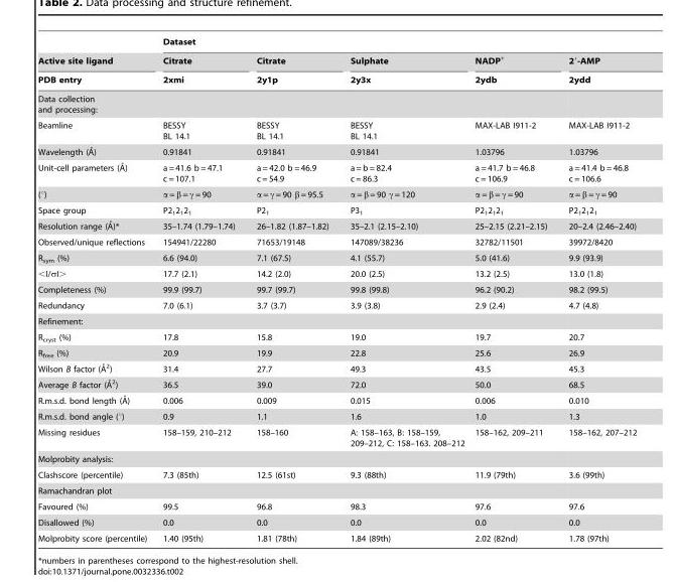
<table><thead><tr><td rowspan="3">Active site ligand PDB entry</td><td colspan="5">Dataset</td></tr><tr><td rowspan="2">Citrate 2xmi</td><td rowspan="2">Citrate 2y1p</td><td rowspan="2">Sulphate 2y3x</td><td rowspan="2">NADP<sup>+</sup> 2ydb</td><td rowspan="2">2′-AMP 2ydd</td></tr><tr></tr></thead><tbody><tr><td colspan="6">Data collection and processing:</td></tr><tr><td>Beamline</td><td>BESSY BL 14.1</td><td>BESSY BL 14.1</td><td>BESSY BL 14.1</td><td>MAX-LAB I911-2</td><td>MAX-LAB I911-2</td></tr><tr><td>Wavelength (A˚)</td><td>0.91841</td><td>0.91841</td><td>0.91841</td><td>1.03796</td><td>1.03796</td></tr><tr><td>Unit-cell parameters (A˚)</td><td>a = 41.6 b = 47.1 c = 107.1</td><td>a = 42.0 b = 46.9 c = 54.9</td><td>a = b = 82.4 c = 86.3</td><td>a = 41.7 b = 46.8 c = 106.9</td><td>a = 41.4 b = 46.8 c = 106.6</td></tr><tr><td>(°)</td><td>α = β = γ = 90</td><td>α = γ = 90 β = 95.5</td><td>α = β = 90 γ = 120</td><td>α = β = γ = 90</td><td>α = β = γ = 90</td></tr><tr><td>Space group</td><td>P2<sub>1</sub>2<sub>1</sub>2<sub>1</sub></td><td>P2<sub>1</sub></td><td>P3<sub>1</sub></td><td>P2<sub>1</sub>2<sub>1</sub>2<sub>1</sub></td><td>P2<sub>1</sub>2<sub>1</sub>2<sub>1</sub></td></tr><tr><td>Resolution range (A˚)*</td><td>35–1.74 (1.79–1.74)</td><td>26–1.82 (1.87–1.82)</td><td>35–2.1 (2.15–2.10)</td><td>25–2.15 (2.21–2.15)</td><td>20–2.4 (2.46–2.40)</td></tr><tr><td>Observed/unique reflections</td><td>154941/22280</td><td>71653/19148</td><td>147089/38236</td><td>32782/11501</td><td>39972/8420</td></tr><tr><td>R<sub>sym</sub> (%)</td><td>6.6 (94.0)</td><td>7.1 (67.5)</td><td>4.1 (55.7)</td><td>5.0 (41.6)</td><td>9.9 (93.9)</td></tr><tr><td>&lt;I/σI&gt;</td><td>17.7 (2.1)</td><td>14.2 (2.0)</td><td>20.0 (2.5)</td><td>13.2 (2.5)</td><td>13.0 (1.8)</td></tr><tr><td>Completeness (%)</td><td>99.9 (99.7)</td><td>99.7 (99.7)</td><td>99.8 (99.8)</td><td>96.2 (90.2)</td><td>98.2 (99.5)</td></tr><tr><td>Redundancy</td><td>7.0 (6.1)</td><td>3.7 (3.7)</td><td>3.9 (3.8)</td><td>2.9 (2.4)</td><td>4.7 (4.8)</td></tr><tr><td colspan="6">Refinement:</td></tr><tr><td>R<sub>cryst</sub> (%)</td><td>17.8</td><td>15.8</td><td>19.0</td><td>19.7</td><td>20.7</td></tr><tr><td>R<sub>free</sub> (%)</td><td>20.9</td><td>19.9</td><td>22.8</td><td>25.6</td><td>26.9</td></tr><tr><td>Wilson B factor (A˚ 2)</td><td>31.4</td><td>27.7</td><td>49.3</td><td>43.5</td><td>45.3</td></tr><tr><td>Average B factor (A˚2)</td><td>36.5</td><td>39.0</td><td>72.0</td><td>50.0</td><td>68.5</td></tr><tr><td>R.m.s.d. bond length (A˚)</td><td>0.006</td><td>0.009</td><td>0.015</td><td>0.006</td><td>0.010</td></tr><tr><td>R.m.s.d. bond angle (°)</td><td>0.9</td><td>1.1</td><td>1.6</td><td>1.0</td><td>1.3</td></tr><tr><td>Missing residues</td><td>158–159, 210–212</td><td>158–160</td><td>A: 158–163, B: 158–159, 209–212, C: 158–163. 208–212</td><td>158–162, 209–211</td><td>158–162, 207–212</td></tr><tr><td colspan="6">Molprobity analysis:</td></tr><tr><td>Clashscore (percentile)</td><td>7.3 (85th)</td><td>12.5 (61st)</td><td>9.3 (88th)</td><td>11.9 (79th)</td><td>3.6 (99th)</td></tr><tr><td colspan="6">Ramachandran plot</td></tr><tr><td>Favoured (%)</td><td>99.5</td><td>96.8</td><td>98.3</td><td>97.6</td><td>97.6</td></tr><tr><td>Disallowed (%)</td><td>0.0</td><td>0.0</td><td>0.0</td><td>0.0</td><td>0.0</td></tr><tr><td>Molprobity score (percentile)</td><td>1.40 (95th)</td><td>1.81 (78th)</td><td>1.84 (89th)</td><td>2.02 (82nd)</td><td>1.78 (97th)</td></tr></tbody></table>